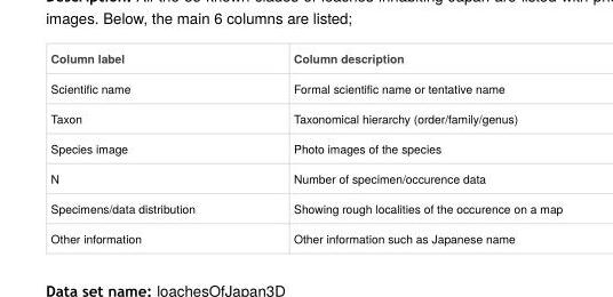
<table><thead><tr><td>Column label</td><td>Column description</td></tr></thead><tbody><tr><td>Scientific name</td><td>Formal scientific name or tentative name</td></tr><tr><td>Taxon</td><td>Taxonomical hierarchy (order/family/genus)</td></tr><tr><td>Species image</td><td>Photo images of the species</td></tr><tr><td>N</td><td>Number of specimen/occurence data</td></tr><tr><td>Specimens/data distribution</td><td>Showing rough localities of the occurence on a map</td></tr><tr><td>Other information</td><td>Other information such as Japanese name</td></tr></tbody></table>